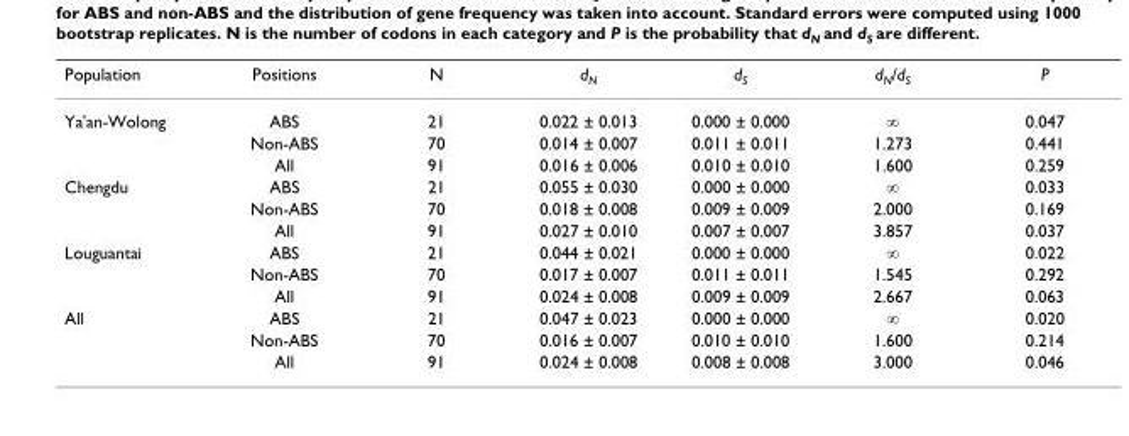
<table><thead><tr><td>Population</td><td>Positions</td><td>N</td><td>d<sub>N</sub></td><td>d<sub>S</sub></td><td>d<sub>N</sub>/d<sub>S</sub></td><td>P</td></tr></thead><tbody><tr><td rowspan="3">Ya&#x27;an-Wolong</td><td>ABS</td><td>21</td><td>0.022 ± 0.013</td><td>0.000 ± 0.000</td><td>∞</td><td>0.047</td></tr><tr><td>Non-ABS</td><td>70</td><td>0.014 ± 0.007</td><td>0.011 ± 0.011</td><td>1.273</td><td>0.441</td></tr><tr><td>All</td><td>91</td><td>0.016 ± 0.006</td><td>0.010 ± 0.010</td><td>1.600</td><td>0.259</td></tr><tr><td rowspan="3">Chengdu</td><td>ABS</td><td>21</td><td>0.055 ± 0.030</td><td>0.000 ± 0.000</td><td>∞</td><td>0.033</td></tr><tr><td>Non-ABS</td><td>70</td><td>0.018 ± 0.008</td><td>0.009 ± 0.009</td><td>2.000</td><td>0.169</td></tr><tr><td>All</td><td>91</td><td>0.027 ± 0.010</td><td>0.007 ± 0.007</td><td>3.857</td><td>0.037</td></tr><tr><td rowspan="3">Louguantai</td><td>ABS</td><td>21</td><td>0.044 ± 0.021</td><td>0.000 ± 0.000</td><td>∞</td><td>0.022</td></tr><tr><td>Non-ABS</td><td>70</td><td>0.017 ± 0.007</td><td>0.011 ± 0.011</td><td>1.545</td><td>0.292</td></tr><tr><td>All</td><td>91</td><td>0.024 ± 0.008</td><td>0.009 ± 0.009</td><td>2.667</td><td>0.063</td></tr><tr><td rowspan="3">All</td><td>ABS</td><td>21</td><td>0.047 ± 0.023</td><td>0.000 ± 0.000</td><td>∞</td><td>0.020</td></tr><tr><td>Non-ABS</td><td>70</td><td>0.016 ± 0.007</td><td>0.010 ± 0.010</td><td>1.600</td><td>0.214</td></tr><tr><td>All</td><td>91</td><td>0.024 ± 0.008</td><td>0.008 ± 0.008</td><td>3.000</td><td>0.046</td></tr></tbody></table>